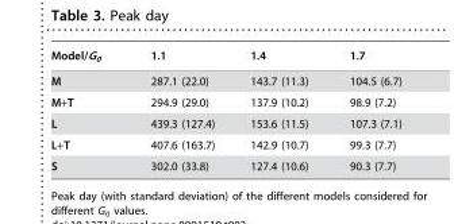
<table><thead><tr><td>Model/G<sub>0</sub></td><td>1.1</td><td>1.4</td><td>1.7</td></tr></thead><tbody><tr><td>M</td><td>287.1 (22.0)</td><td>143.7 (11.3)</td><td>104.5 (6.7)</td></tr><tr><td>M+T</td><td>294.9 (29.0)</td><td>137.9 (10.2)</td><td>98.9 (7.2)</td></tr><tr><td>L</td><td>439.3 (127.4)</td><td>153.6 (11.5)</td><td>107.3 (7.1)</td></tr><tr><td>L+T</td><td>407.6 (163.7)</td><td>142.9 (10.7)</td><td>99.3 (7.7)</td></tr><tr><td>S</td><td>302.0 (33.8)</td><td>127.4 (10.6)</td><td>90.3 (7.7)</td></tr></tbody></table>